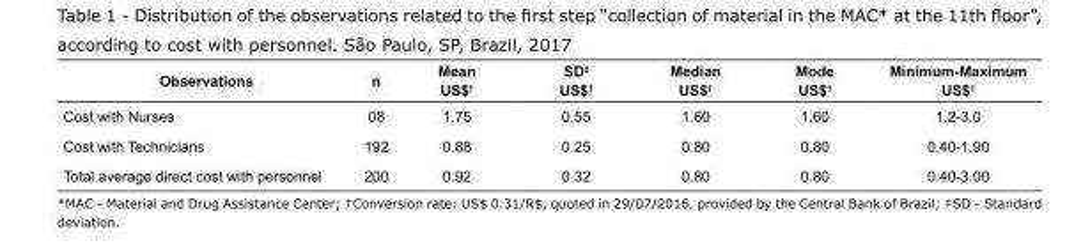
<table><tbody><tr><td>Observations</td><td>n</td><td>Mean US$<sup>†</sup></td><td>SD<sup>‡</sup> US$<sup>†</sup></td><td>Median US$<sup>†</sup></td><td>Mode US$<sup>†</sup></td><td>Minimum-Maximum US$<sup>†</sup></td></tr><tr><td>Cost with Nurses</td><td>08</td><td>1.75</td><td>0.55</td><td>1.60</td><td>1.60</td><td>1.2-3.0</td></tr><tr><td>Cost with Technicians</td><td>192</td><td>0.88</td><td>0.25</td><td>0.80</td><td>0.80</td><td>0.40-1.90</td></tr><tr><td>Total average direct cost with personnel</td><td>200</td><td>0.92</td><td>0.32</td><td>0.80</td><td>0.80</td><td>0.40-3.00</td></tr></tbody></table>